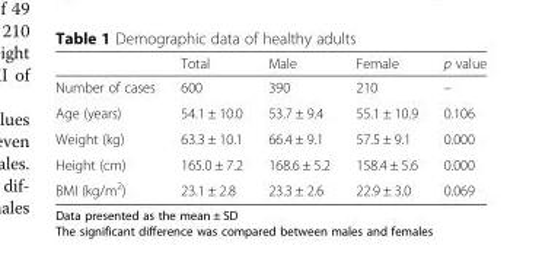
<table><thead><tr><td></td><td>Total</td><td>Male</td><td>Female</td><td>p value</td></tr></thead><tbody><tr><td>Number of cases</td><td>600</td><td>390</td><td>210</td><td>–</td></tr><tr><td>Age (years)</td><td>54.1 ± 10.0</td><td>53.7 ± 9.4</td><td>55.1 ± 10.9</td><td>0.106</td></tr><tr><td>Weight (kg)</td><td>63.3 ± 10.1</td><td>66.4 ± 9.1</td><td>57.5 ± 9.1</td><td>0.000</td></tr><tr><td>Height (cm)</td><td>165.0 ± 7.2</td><td>168.6 ± 5.2</td><td>158.4 ± 5.6</td><td>0.000</td></tr><tr><td>BMI (kg/m<sup>2</sup>)</td><td>23.1 ± 2.8</td><td>23.3 ± 2.6</td><td>22.9 ± 3.0</td><td>0.069</td></tr></tbody></table>